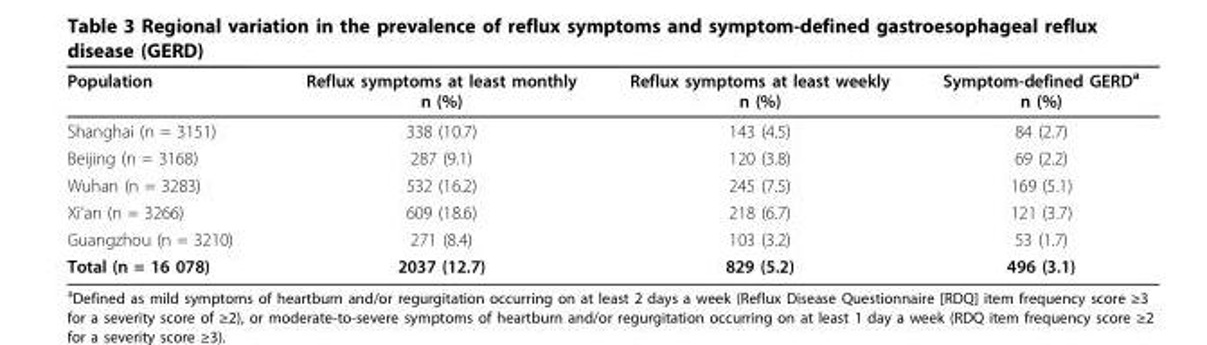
<table><thead><tr><td>Population</td><td>Reflux symptoms at least monthly n (%)</td><td>Reflux symptoms at least weekly n (%)</td><td>Symptom-defined GERD<sup>a</sup> n (%)</td></tr></thead><tbody><tr><td>Shanghai (n = 3151)</td><td>338 (10.7)</td><td>143 (4.5)</td><td>84 (2.7)</td></tr><tr><td>Beijing (n = 3168)</td><td>287 (9.1)</td><td>120 (3.8)</td><td>69 (2.2)</td></tr><tr><td>Wuhan (n = 3283)</td><td>532 (16.2)</td><td>245 (7.5)</td><td>169 (5.1)</td></tr><tr><td>Xi’an (n = 3266)</td><td>609 (18.6)</td><td>218 (6.7)</td><td>121 (3.7)</td></tr><tr><td>Guangzhou (n = 3210)</td><td>271 (8.4)</td><td>103 (3.2)</td><td>53 (1.7)</td></tr><tr><td>Total (n = 16 078)</td><td>2037 (12.7)</td><td>829 (5.2)</td><td>496 (3.1)</td></tr></tbody></table>